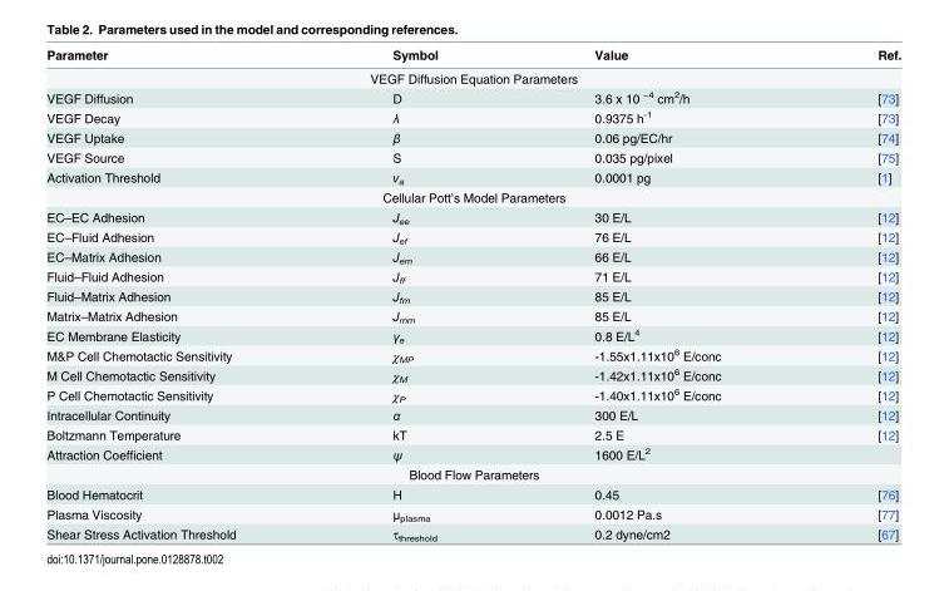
<table><thead><tr><td>Parameter</td><td>Symbol</td><td>Value</td><td>Ref.</td></tr></thead><tbody><tr><td colspan="4">VEGF Diffusion Equation Parameters</td></tr><tr><td>VEGF Diffusion</td><td>D</td><td>3.6 x 10 <sup>−4</sup> cm<sup>2</sup>/h</td><td>[73]</td></tr><tr><td>VEGF Decay</td><td>λ</td><td>0.9375 h<sup>-1</sup></td><td>[73]</td></tr><tr><td>VEGF Uptake</td><td>β</td><td>0.06 pg/EC/hr</td><td>[74]</td></tr><tr><td>VEGF Source</td><td>S</td><td>0.035 pg/pixel</td><td>[75]</td></tr><tr><td>Activation Threshold</td><td>v<sub>a</sub></td><td>0.0001 pg</td><td>[1]</td></tr><tr><td colspan="4">Cellular Pott’s Model Parameters</td></tr><tr><td>EC–EC Adhesion</td><td>J<sub>ee</sub></td><td>30 E/L</td><td>[12]</td></tr><tr><td>EC–Fluid Adhesion</td><td>J<sub>ef</sub></td><td>76 E/L</td><td>[12]</td></tr><tr><td>EC–Matrix Adhesion</td><td>J<sub>em</sub></td><td>66 E/L</td><td>[12]</td></tr><tr><td>Fluid–Fluid Adhesion</td><td>J<sub>ff</sub></td><td>71 E/L</td><td>[12]</td></tr><tr><td>Fluid–Matrix Adhesion</td><td>J<sub>fm</sub></td><td>85 E/L</td><td>[12]</td></tr><tr><td>Matrix–Matrix Adhesion</td><td>J<sub>mm</sub></td><td>85 E/L</td><td>[12]</td></tr><tr><td>EC Membrane Elasticity</td><td>γ<sub>e</sub></td><td>0.8 E/L<sup>4</sup></td><td>[12]</td></tr><tr><td>M&amp;P Cell Chemotactic Sensitivity</td><td>χ<sub>MP</sub></td><td>-1.55x1.11x10<sup>6</sup> E/conc</td><td>[12]</td></tr><tr><td>M Cell Chemotactic Sensitivity</td><td>χ<sub>M</sub></td><td>-1.42x1.11x10<sup>6</sup> E/conc</td><td>[12]</td></tr><tr><td>P Cell Chemotactic Sensitivity</td><td>χ<sub>P</sub></td><td>-1.40x1.11x10<sup>6</sup> E/conc</td><td>[12]</td></tr><tr><td>Intracellular Continuity</td><td>α</td><td>300 E/L</td><td>[12]</td></tr><tr><td>Boltzmann Temperature</td><td>kT</td><td>2.5 E</td><td>[12]</td></tr><tr><td>Attraction Coefficient</td><td>ψ</td><td>1600 E/L<sup>2</sup></td><td></td></tr><tr><td colspan="4">Blood Flow Parameters</td></tr><tr><td>Blood Hematocrit</td><td>H</td><td>0.45</td><td>[76]</td></tr><tr><td>Plasma Viscosity</td><td>μ<sub>plasma</sub></td><td>0.0012 Pa.s</td><td>[77]</td></tr><tr><td>Shear Stress Activation Threshold</td><td>τ<sub>threshold</sub></td><td>0.2 dyne/cm2</td><td>[67]</td></tr></tbody></table>